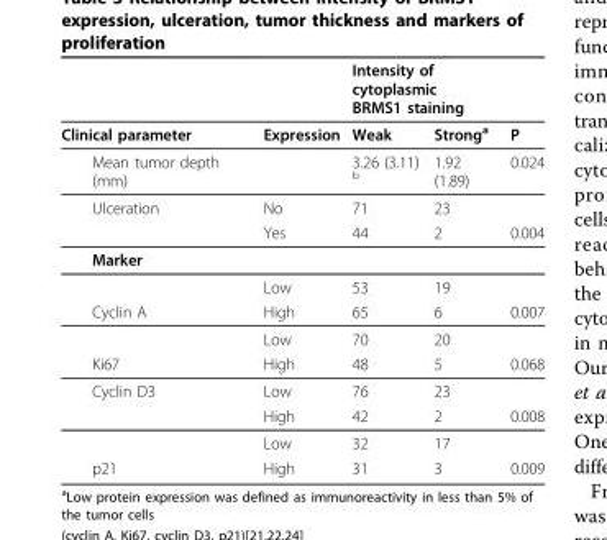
<table><thead><tr><td rowspan="2">Clinical parameter</td><td rowspan="2">Expression</td><td colspan="2">Intensity of cytoplasmic BRMS1 staining</td><td rowspan="2">P</td></tr><tr><td>Weak</td><td>Strong<sup>a</sup></td></tr></thead><tbody><tr><td>Mean tumor depth (mm)</td><td></td><td>3.26 (3.11) <sup>b</sup></td><td>1.92 (1.89)</td><td>0.024</td></tr><tr><td rowspan="2">Ulceration</td><td>No</td><td>71</td><td>23</td><td></td></tr><tr><td>Yes</td><td>44</td><td>2</td><td>0.004</td></tr><tr><td colspan="5">Marker</td></tr><tr><td></td><td>Low</td><td>53</td><td>19</td><td></td></tr><tr><td rowspan="2">Cyclin A</td><td>High</td><td>65</td><td>6</td><td>0.007</td></tr><tr><td>Low</td><td>70</td><td>20</td><td></td></tr><tr><td>Ki67</td><td>High</td><td>48</td><td>5</td><td>0.068</td></tr><tr><td rowspan="3">Cyclin D3</td><td>Low</td><td>76</td><td>23</td><td></td></tr><tr><td>High</td><td>42</td><td>2</td><td>0.008</td></tr><tr><td>Low</td><td>32</td><td>17</td><td></td></tr><tr><td>p21</td><td>High</td><td>31</td><td>3</td><td>0.009</td></tr></tbody></table>